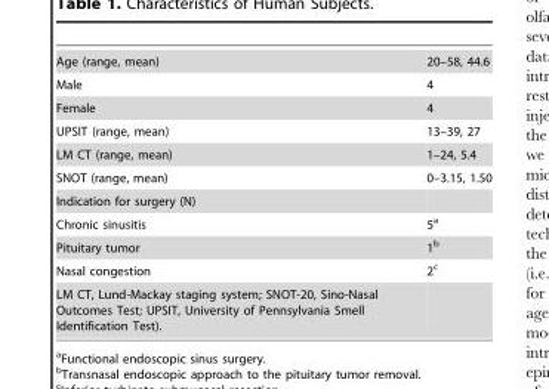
<table><tbody><tr><td>Age (range, mean)</td><td>20–58, 44.6</td></tr><tr><td>Male</td><td>4</td></tr><tr><td>Female</td><td>4</td></tr><tr><td>UPSIT (range, mean)</td><td>13–39, 27</td></tr><tr><td>LM CT (range, mean)</td><td>1–24, 5.4</td></tr><tr><td>SNOT (range, mean)</td><td>0–3.15, 1.50</td></tr><tr><td colspan="2">Indication for surgery (N)</td></tr><tr><td>Chronic sinusitis</td><td>5<sup>a</sup></td></tr><tr><td>Pituitary tumor</td><td>1<sup>b</sup></td></tr><tr><td>Nasal congestion</td><td>2<sup>c</sup></td></tr><tr><td>LM CT, Lund-Mackay staging system; SNOT-20, Sino-Nasal Outcomes Test; UPSIT, University of Pennsylvania Smell Identification Test).</td><td></td></tr></tbody></table>